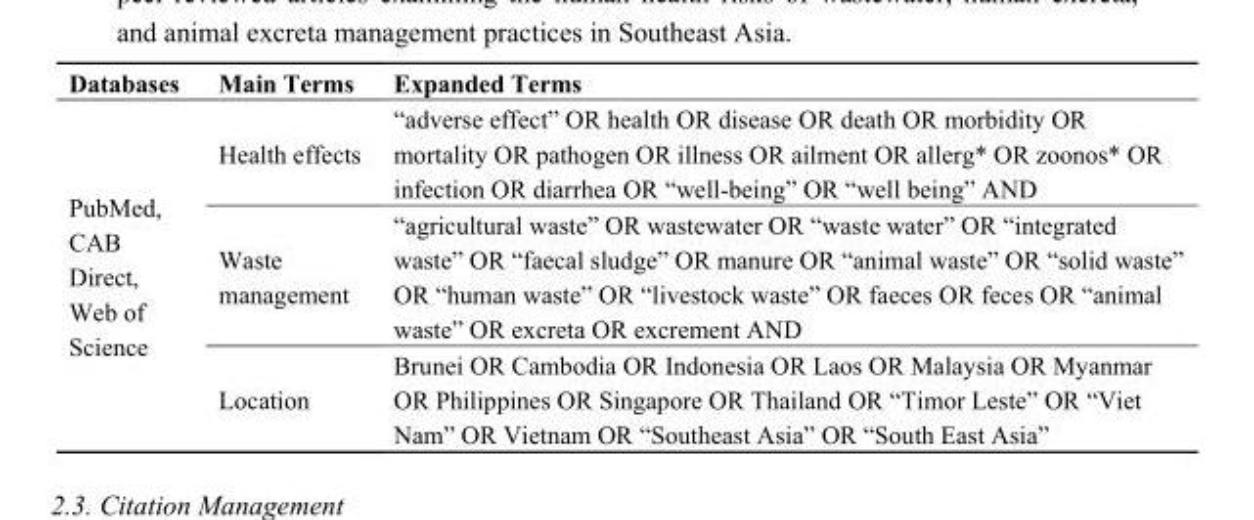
<table><thead><tr><td>Databases</td><td>Main Terms</td><td>Expanded Terms</td></tr></thead><tbody><tr><td rowspan="3">PubMed, CAB Direct, Web of Science</td><td>Health effects</td><td>“adverse effect” OR health OR disease OR death OR morbidity OR mortality OR pathogen OR illness OR ailment OR allerg* OR zoonos* OR infection OR diarrhea OR “well-being” OR “well being” AND</td></tr><tr><td>Waste management</td><td>“agricultural waste” OR wastewater OR “waste water” OR “integrated waste” OR “faecal sludge” OR manure OR “animal waste” OR “solid waste” OR “human waste” OR “livestock waste” OR faeces OR feces OR “animal waste” OR excreta OR excrement AND</td></tr><tr><td>Location</td><td>Brunei OR Cambodia OR Indonesia OR Laos OR Malaysia OR Myanmar OR Philippines OR Singapore OR Thailand OR “Timor Leste” OR “Viet Nam” OR Vietnam OR “Southeast Asia” OR “South East Asia”</td></tr></tbody></table>